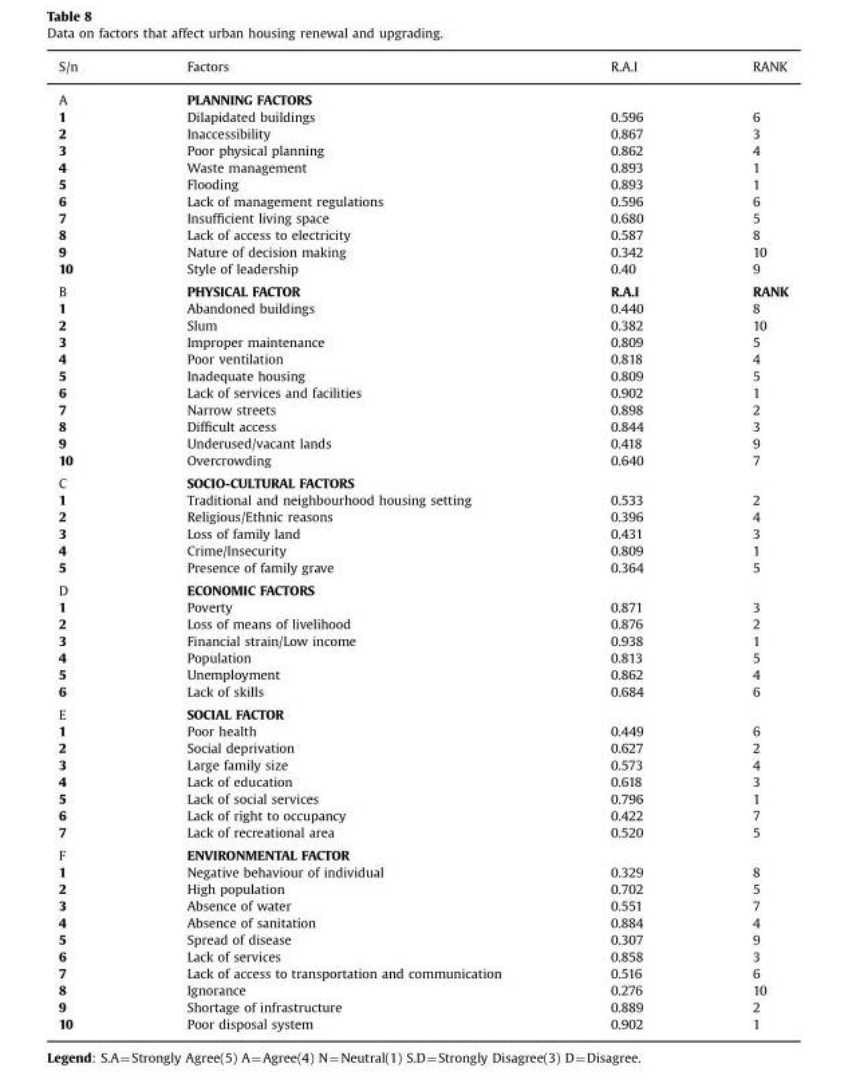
<table><thead><tr><td>S/n</td><td>Factors</td><td>R.A.I</td><td>RANK</td></tr></thead><tbody><tr><td>A</td><td>PLANNING FACTORS</td><td></td><td></td></tr><tr><td>1</td><td>Dilapidated buildings</td><td>0.596</td><td>6</td></tr><tr><td>2</td><td>Inaccessibility</td><td>0.867</td><td>3</td></tr><tr><td>3</td><td>Poor physical planning</td><td>0.862</td><td>4</td></tr><tr><td>4</td><td>Waste management</td><td>0.893</td><td>1</td></tr><tr><td>5</td><td>Flooding</td><td>0.893</td><td>1</td></tr><tr><td>6</td><td>Lack of management regulations</td><td>0.596</td><td>6</td></tr><tr><td>7</td><td>Insufficient living space</td><td>0.680</td><td>5</td></tr><tr><td>8</td><td>Lack of access to electricity</td><td>0.587</td><td>8</td></tr><tr><td>9</td><td>Nature of decision making</td><td>0.342</td><td>10</td></tr><tr><td>10</td><td>Style of leadership</td><td>0.40</td><td>9</td></tr><tr><td>B</td><td>PHYSICAL FACTOR</td><td>R.A.I</td><td>RANK</td></tr><tr><td>1</td><td>Abandoned buildings</td><td>0.440</td><td>8</td></tr><tr><td>2</td><td>Slum</td><td>0.382</td><td>10</td></tr><tr><td>3</td><td>Improper maintenance</td><td>0.809</td><td>5</td></tr><tr><td>4</td><td>Poor ventilation</td><td>0.818</td><td>4</td></tr><tr><td>5</td><td>Inadequate housing</td><td>0.809</td><td>5</td></tr><tr><td>6</td><td>Lack of services and facilities</td><td>0.902</td><td>1</td></tr><tr><td>7</td><td>Narrow streets</td><td>0.898</td><td>2</td></tr><tr><td>8</td><td>Difficult access</td><td>0.844</td><td>3</td></tr><tr><td>9</td><td>Underused/vacant lands</td><td>0.418</td><td>9</td></tr><tr><td>10</td><td>Overcrowding</td><td>0.640</td><td>7</td></tr><tr><td>C</td><td>SOCIO-CULTURAL FACTORS</td><td></td><td></td></tr><tr><td>1</td><td>Traditional and neighbourhood housing setting</td><td>0.533</td><td>2</td></tr><tr><td>2</td><td>Religious/Ethnic reasons</td><td>0.396</td><td>4</td></tr><tr><td>3</td><td>Loss of family land</td><td>0.431</td><td>3</td></tr><tr><td>4</td><td>Crime/Insecurity</td><td>0.809</td><td>1</td></tr><tr><td>5</td><td>Presence of family grave</td><td>0.364</td><td>5</td></tr><tr><td>D</td><td>ECONOMIC FACTORS</td><td></td><td></td></tr><tr><td>1</td><td>Poverty</td><td>0.871</td><td>3</td></tr><tr><td>2</td><td>Loss of means of livelihood</td><td>0.876</td><td>2</td></tr><tr><td>3</td><td>Financial strain/Low income</td><td>0.938</td><td>1</td></tr><tr><td>4</td><td>Population</td><td>0.813</td><td>5</td></tr><tr><td>5</td><td>Unemployment</td><td>0.862</td><td>4</td></tr><tr><td>6</td><td>Lack of skills</td><td>0.684</td><td>6</td></tr><tr><td>E</td><td>SOCIAL FACTOR</td><td></td><td></td></tr><tr><td>1</td><td>Poor health</td><td>0.449</td><td>6</td></tr><tr><td>2</td><td>Social deprivation</td><td>0.627</td><td>2</td></tr><tr><td>3</td><td>Large family size</td><td>0.573</td><td>4</td></tr><tr><td>4</td><td>Lack of education</td><td>0.618</td><td>3</td></tr><tr><td>5</td><td>Lack of social services</td><td>0.796</td><td>1</td></tr><tr><td>6</td><td>Lack of right to occupancy</td><td>0.422</td><td>7</td></tr><tr><td>7</td><td>Lack of recreational area</td><td>0.520</td><td>5</td></tr><tr><td>F</td><td>ENVIRONMENTAL FACTOR</td><td></td><td></td></tr><tr><td>1</td><td>Negative behaviour of individual</td><td>0.329</td><td>8</td></tr><tr><td>2</td><td>High population</td><td>0.702</td><td>5</td></tr><tr><td>3</td><td>Absence of water</td><td>0.551</td><td>7</td></tr><tr><td>4</td><td>Absence of sanitation</td><td>0.884</td><td>4</td></tr><tr><td>5</td><td>Spread of disease</td><td>0.307</td><td>9</td></tr><tr><td>6</td><td>Lack of services</td><td>0.858</td><td>3</td></tr><tr><td>7</td><td>Lack of access to transportation and communication</td><td>0.516</td><td>6</td></tr><tr><td>8</td><td>Ignorance</td><td>0.276</td><td>10</td></tr><tr><td>9</td><td>Shortage of infrastructure</td><td>0.889</td><td>2</td></tr><tr><td>10</td><td>Poor disposal system</td><td>0.902</td><td>1</td></tr></tbody></table>